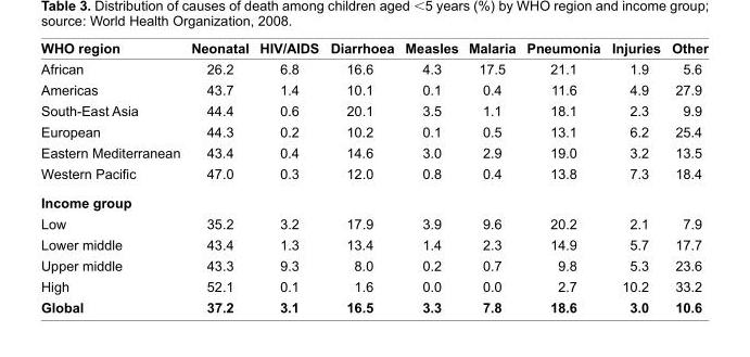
<table><thead><tr><td>WHO region</td><td>Neonatal</td><td>HIV/AIDS</td><td>Diarrhoea</td><td>Measles</td><td>Malaria</td><td>Pneumonia</td><td>Injuries</td><td>Other</td></tr></thead><tbody><tr><td>African</td><td>26.2</td><td>6.8</td><td>16.6</td><td>4.3</td><td>17.5</td><td>21.1</td><td>1.9</td><td>5.6</td></tr><tr><td>Americas</td><td>43.7</td><td>1.4</td><td>10.1</td><td>0.1</td><td>0.4</td><td>11.6</td><td>4.9</td><td>27.9</td></tr><tr><td>South-East Asia</td><td>44.4</td><td>0.6</td><td>20.1</td><td>3.5</td><td>1.1</td><td>18.1</td><td>2.3</td><td>9.9</td></tr><tr><td>European</td><td>44.3</td><td>0.2</td><td>10.2</td><td>0.1</td><td>0.5</td><td>13.1</td><td>6.2</td><td>25.4</td></tr><tr><td>Eastern Mediterranean</td><td>43.4</td><td>0.4</td><td>14.6</td><td>3.0</td><td>2.9</td><td>19.0</td><td>3.2</td><td>13.5</td></tr><tr><td>Western Pacifi c</td><td>47.0</td><td>0.3</td><td>12.0</td><td>0.8</td><td>0.4</td><td>13.8</td><td>7.3</td><td>18.4</td></tr><tr><td colspan="9">Income group</td></tr><tr><td>Low</td><td>35.2</td><td>3.2</td><td>17.9</td><td>3.9</td><td>9.6</td><td>20.2</td><td>2.1</td><td>7.9</td></tr><tr><td>Lower middle</td><td>43.4</td><td>1.3</td><td>13.4</td><td>1.4</td><td>2.3</td><td>14.9</td><td>5.7</td><td>17.7</td></tr><tr><td>Upper middle</td><td>43.3</td><td>9.3</td><td>8.0</td><td>0.2</td><td>0.7</td><td>9.8</td><td>5.3</td><td>23.6</td></tr><tr><td>High</td><td>52.1</td><td>0.1</td><td>1.6</td><td>0.0</td><td>0.0</td><td>2.7</td><td>10.2</td><td>33.2</td></tr><tr><td>Global</td><td>37.2</td><td>3.1</td><td>16.5</td><td>3.3</td><td>7.8</td><td>18.6</td><td>3.0</td><td>10.6</td></tr></tbody></table>